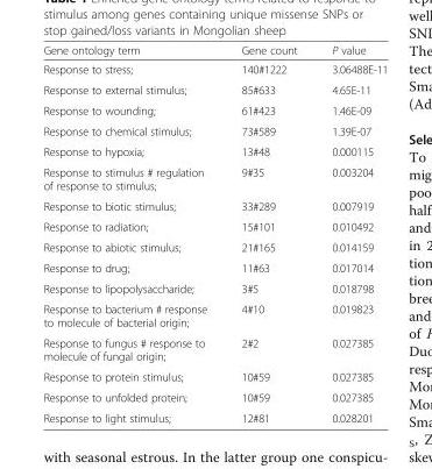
<table><thead><tr><td>Gene ontology term</td><td>Gene count</td><td>P value</td></tr></thead><tbody><tr><td>Response to stress;</td><td>140#1222</td><td>3.06488E-11</td></tr><tr><td>Response to external stimulus;</td><td>85#633</td><td>4.65E-11</td></tr><tr><td>Response to wounding;</td><td>61#423</td><td>1.46E-09</td></tr><tr><td>Response to chemical stimulus;</td><td>73#589</td><td>1.39E-07</td></tr><tr><td>Response to hypoxia;</td><td>13#48</td><td>0.000115</td></tr><tr><td>Response to stimulus # regulation of response to stimulus;</td><td>9#35</td><td>0.003204</td></tr><tr><td>Response to biotic stimulus;</td><td>33#289</td><td>0.007919</td></tr><tr><td>Response to radiation;</td><td>15#101</td><td>0.010492</td></tr><tr><td>Response to abiotic stimulus;</td><td>21#165</td><td>0.014159</td></tr><tr><td>Response to drug;</td><td>11#63</td><td>0.017014</td></tr><tr><td>Response to lipopolysaccharide;</td><td>3#5</td><td>0.018798</td></tr><tr><td>Response to bacterium # response to molecule of bacterial origin;</td><td>4#10</td><td>0.019823</td></tr><tr><td>Response to fungus # response to molecule of fungal origin;</td><td>2#2</td><td>0.027385</td></tr><tr><td>Response to protein stimulus;</td><td>10#59</td><td>0.027385</td></tr><tr><td>Response to unfolded protein;</td><td>10#59</td><td>0.027385</td></tr><tr><td>Response to light stimulus;</td><td>12#81</td><td>0.028201</td></tr></tbody></table>